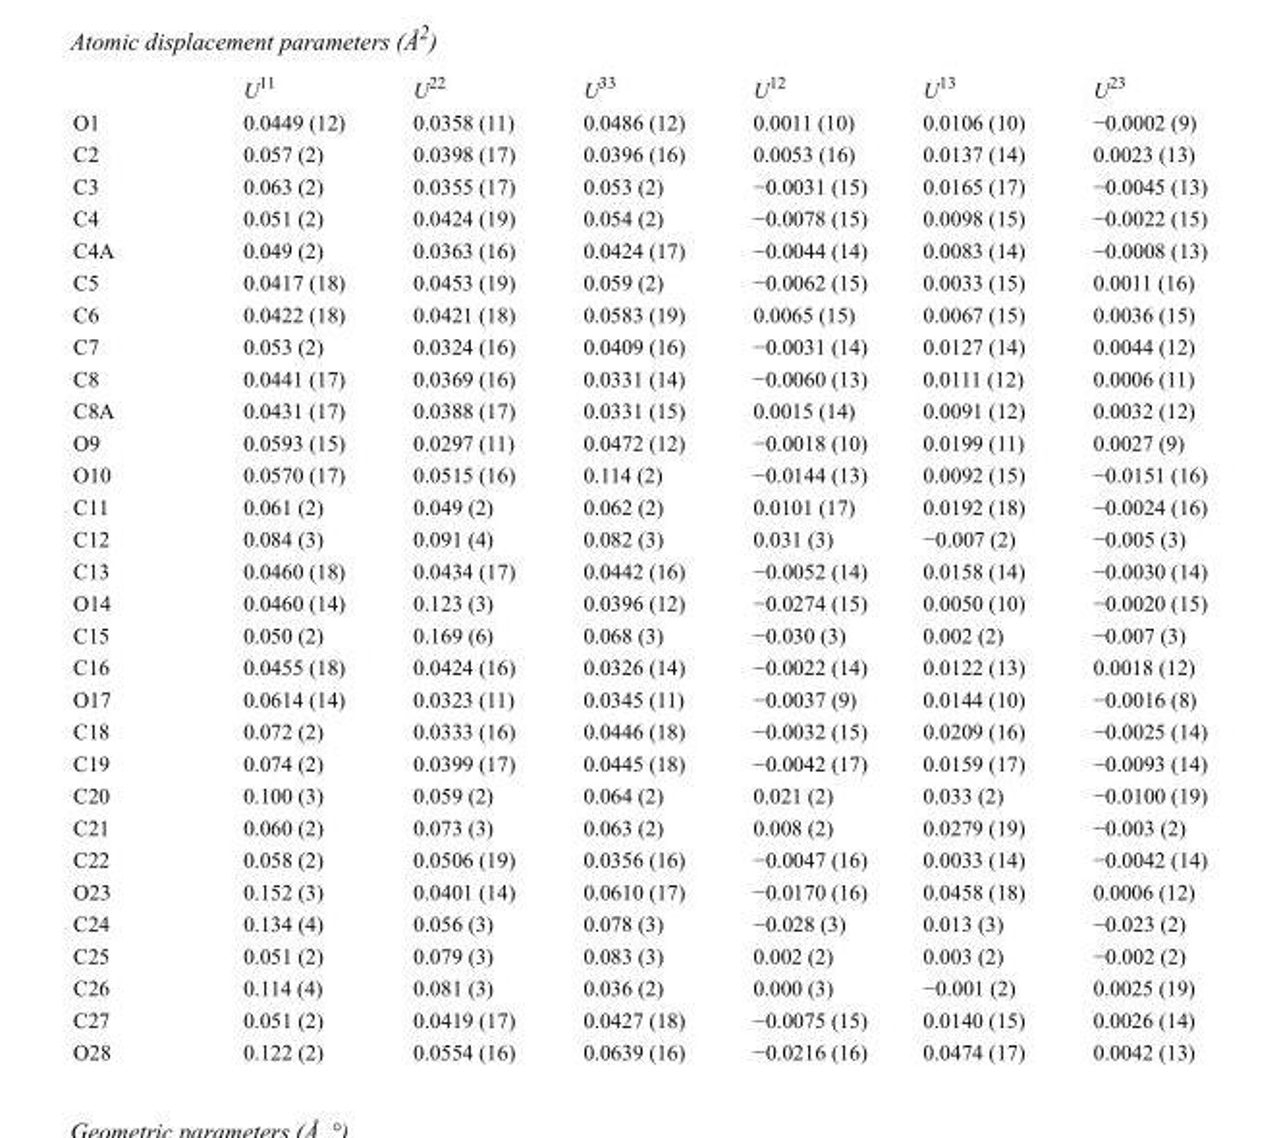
<table><thead><tr><td></td><td>U<sup>11</sup></td><td>U<sup>22</sup></td><td>U<sup>33</sup></td><td>U<sup>12</sup></td><td>U<sup>13</sup></td><td>U<sup>23</sup></td></tr></thead><tbody><tr><td>O1</td><td>0.0449 (12)</td><td>0.0358 (11)</td><td>0.0486 (12)</td><td>0.0011 (10)</td><td>0.0106 (10)</td><td>−0.0002 (9)</td></tr><tr><td>C2</td><td>0.057 (2)</td><td>0.0398 (17)</td><td>0.0396 (16)</td><td>0.0053 (16)</td><td>0.0137 (14)</td><td>0.0023 (13)</td></tr><tr><td>C3</td><td>0.063 (2)</td><td>0.0355 (17)</td><td>0.053 (2)</td><td>−0.0031 (15)</td><td>0.0165 (17)</td><td>−0.0045 (13)</td></tr><tr><td>C4</td><td>0.051 (2)</td><td>0.0424 (19)</td><td>0.054 (2)</td><td>−0.0078 (15)</td><td>0.0098 (15)</td><td>−0.0022 (15)</td></tr><tr><td>C4A</td><td>0.049 (2)</td><td>0.0363 (16)</td><td>0.0424 (17)</td><td>−0.0044 (14)</td><td>0.0083 (14)</td><td>−0.0008 (13)</td></tr><tr><td>C5</td><td>0.0417 (18)</td><td>0.0453 (19)</td><td>0.059 (2)</td><td>−0.0062 (15)</td><td>0.0033 (15)</td><td>0.0011 (16)</td></tr><tr><td>C6</td><td>0.0422 (18)</td><td>0.0421 (18)</td><td>0.0583 (19)</td><td>0.0065 (15)</td><td>0.0067 (15)</td><td>0.0036 (15)</td></tr><tr><td>C7</td><td>0.053 (2)</td><td>0.0324 (16)</td><td>0.0409 (16)</td><td>−0.0031 (14)</td><td>0.0127 (14)</td><td>0.0044 (12)</td></tr><tr><td>C8</td><td>0.0441 (17)</td><td>0.0369 (16)</td><td>0.0331 (14)</td><td>−0.0060 (13)</td><td>0.0111 (12)</td><td>0.0006 (11)</td></tr><tr><td>C8A</td><td>0.0431 (17)</td><td>0.0388 (17)</td><td>0.0331 (15)</td><td>0.0015 (14)</td><td>0.0091 (12)</td><td>0.0032 (12)</td></tr><tr><td>O9</td><td>0.0593 (15)</td><td>0.0297 (11)</td><td>0.0472 (12)</td><td>−0.0018 (10)</td><td>0.0199 (11)</td><td>0.0027 (9)</td></tr><tr><td>O10</td><td>0.0570 (17)</td><td>0.0515 (16)</td><td>0.114 (2)</td><td>−0.0144 (13)</td><td>0.0092 (15)</td><td>−0.0151 (16)</td></tr><tr><td>C11</td><td>0.061 (2)</td><td>0.049 (2)</td><td>0.062 (2)</td><td>0.0101 (17)</td><td>0.0192 (18)</td><td>−0.0024 (16)</td></tr><tr><td>C12</td><td>0.084 (3)</td><td>0.091 (4)</td><td>0.082 (3)</td><td>0.031 (3)</td><td>−0.007 (2)</td><td>−0.005 (3)</td></tr><tr><td>C13</td><td>0.0460 (18)</td><td>0.0434 (17)</td><td>0.0442 (16)</td><td>−0.0052 (14)</td><td>0.0158 (14)</td><td>−0.0030 (14)</td></tr><tr><td>O14</td><td>0.0460 (14)</td><td>0.123 (3)</td><td>0.0396 (12)</td><td>−0.0274 (15)</td><td>0.0050 (10)</td><td>−0.0020 (15)</td></tr><tr><td>C15</td><td>0.050 (2)</td><td>0.169 (6)</td><td>0.068 (3)</td><td>−0.030 (3)</td><td>0.002 (2)</td><td>−0.007 (3)</td></tr><tr><td>C16</td><td>0.0455 (18)</td><td>0.0424 (16)</td><td>0.0326 (14)</td><td>−0.0022 (14)</td><td>0.0122 (13)</td><td>0.0018 (12)</td></tr><tr><td>O17</td><td>0.0614 (14)</td><td>0.0323 (11)</td><td>0.0345 (11)</td><td>−0.0037 (9)</td><td>0.0144 (10)</td><td>−0.0016 (8)</td></tr><tr><td>C18</td><td>0.072 (2)</td><td>0.0333 (16)</td><td>0.0446 (18)</td><td>−0.0032 (15)</td><td>0.0209 (16)</td><td>−0.0025 (14)</td></tr><tr><td>C19</td><td>0.074 (2)</td><td>0.0399 (17)</td><td>0.0445 (18)</td><td>−0.0042 (17)</td><td>0.0159 (17)</td><td>−0.0093 (14)</td></tr><tr><td>C20</td><td>0.100 (3)</td><td>0.059 (2)</td><td>0.064 (2)</td><td>0.021 (2)</td><td>0.033 (2)</td><td>−0.0100 (19)</td></tr><tr><td>C21</td><td>0.060 (2)</td><td>0.073 (3)</td><td>0.063 (2)</td><td>0.008 (2)</td><td>0.0279 (19)</td><td>−0.003 (2)</td></tr><tr><td>C22</td><td>0.058 (2)</td><td>0.0506 (19)</td><td>0.0356 (16)</td><td>−0.0047 (16)</td><td>0.0033 (14)</td><td>−0.0042 (14)</td></tr><tr><td>O23</td><td>0.152 (3)</td><td>0.0401 (14)</td><td>0.0610 (17)</td><td>−0.0170 (16)</td><td>0.0458 (18)</td><td>0.0006 (12)</td></tr><tr><td>C24</td><td>0.134 (4)</td><td>0.056 (3)</td><td>0.078 (3)</td><td>−0.028 (3)</td><td>0.013 (3)</td><td>−0.023 (2)</td></tr><tr><td>C25</td><td>0.051 (2)</td><td>0.079 (3)</td><td>0.083 (3)</td><td>0.002 (2)</td><td>0.003 (2)</td><td>−0.002 (2)</td></tr><tr><td>C26</td><td>0.114 (4)</td><td>0.081 (3)</td><td>0.036 (2)</td><td>0.000 (3)</td><td>−0.001 (2)</td><td>0.0025 (19)</td></tr><tr><td>C27</td><td>0.051 (2)</td><td>0.0419 (17)</td><td>0.0427 (18)</td><td>−0.0075 (15)</td><td>0.0140 (15)</td><td>0.0026 (14)</td></tr><tr><td>O28</td><td>0.122 (2)</td><td>0.0554 (16)</td><td>0.0639 (16)</td><td>−0.0216 (16)</td><td>0.0474 (17)</td><td>0.0042 (13)</td></tr></tbody></table>